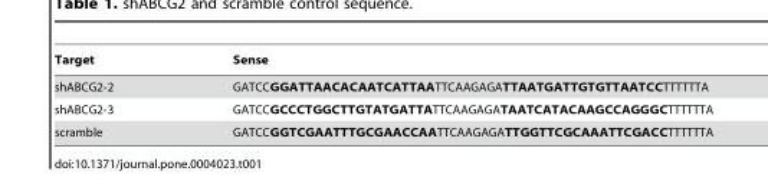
<table><thead><tr><td>Target</td><td>Sense</td></tr></thead><tbody><tr><td>shABCG2-2</td><td>GATCCGGATTAACACAATCATTAATTCAAGAGATTAATGATTGTGTTAATCCTTTTTTA</td></tr><tr><td>shABCG2-3</td><td>GATCCGCCCTGGCTTGTATGATTATTCAAGAGATAATCATACAAGCCAGGGCTTTTTTA</td></tr><tr><td>scramble</td><td>GATCCGGTCGAATTTGCGAACCAATTCAAGAGATTGGTTCGCAAATTCGACCTTTTTTA</td></tr></tbody></table>